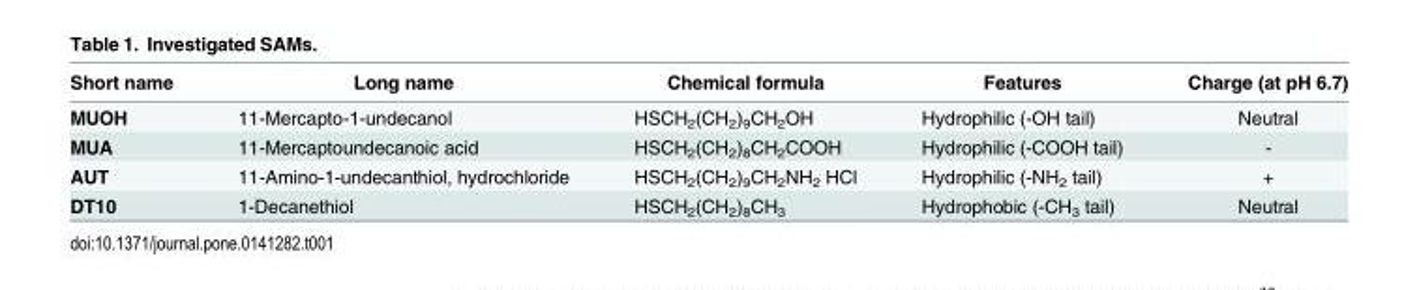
<table><thead><tr><td>Short name</td><td>Long name</td><td>Chemical formula</td><td>Features</td><td>Charge (at pH 6.7)</td></tr></thead><tbody><tr><td>MUOH</td><td>11-Mercapto-1-undecanol</td><td>HSCH<sub>2</sub>(CH<sub>2</sub>)<sub>9</sub>CH<sub>2</sub>OH</td><td>Hydrophilic (-OH tail)</td><td>Neutral</td></tr><tr><td>MUA</td><td>11-Mercaptoundecanoic acid</td><td>HSCH<sub>2</sub>(CH<sub>2</sub>)<sub>8</sub>CH<sub>2</sub>COOH</td><td>Hydrophilic (-COOH tail)</td><td>-</td></tr><tr><td>AUT</td><td>11-Amino-1-undecanthiol, hydrochloride</td><td>HSCH<sub>2</sub>(CH<sub>2</sub>)<sub>9</sub>CH<sub>2</sub>NH<sub>2</sub> HCl</td><td>Hydrophilic (-NH<sub>2</sub> tail)</td><td>+</td></tr><tr><td>DT10</td><td>1-Decanethiol</td><td>HSCH<sub>2</sub>(CH<sub>2</sub>)<sub>8</sub>CH<sub>3</sub></td><td>Hydrophobic (-CH<sub>3</sub> tail)</td><td>Neutral</td></tr></tbody></table>